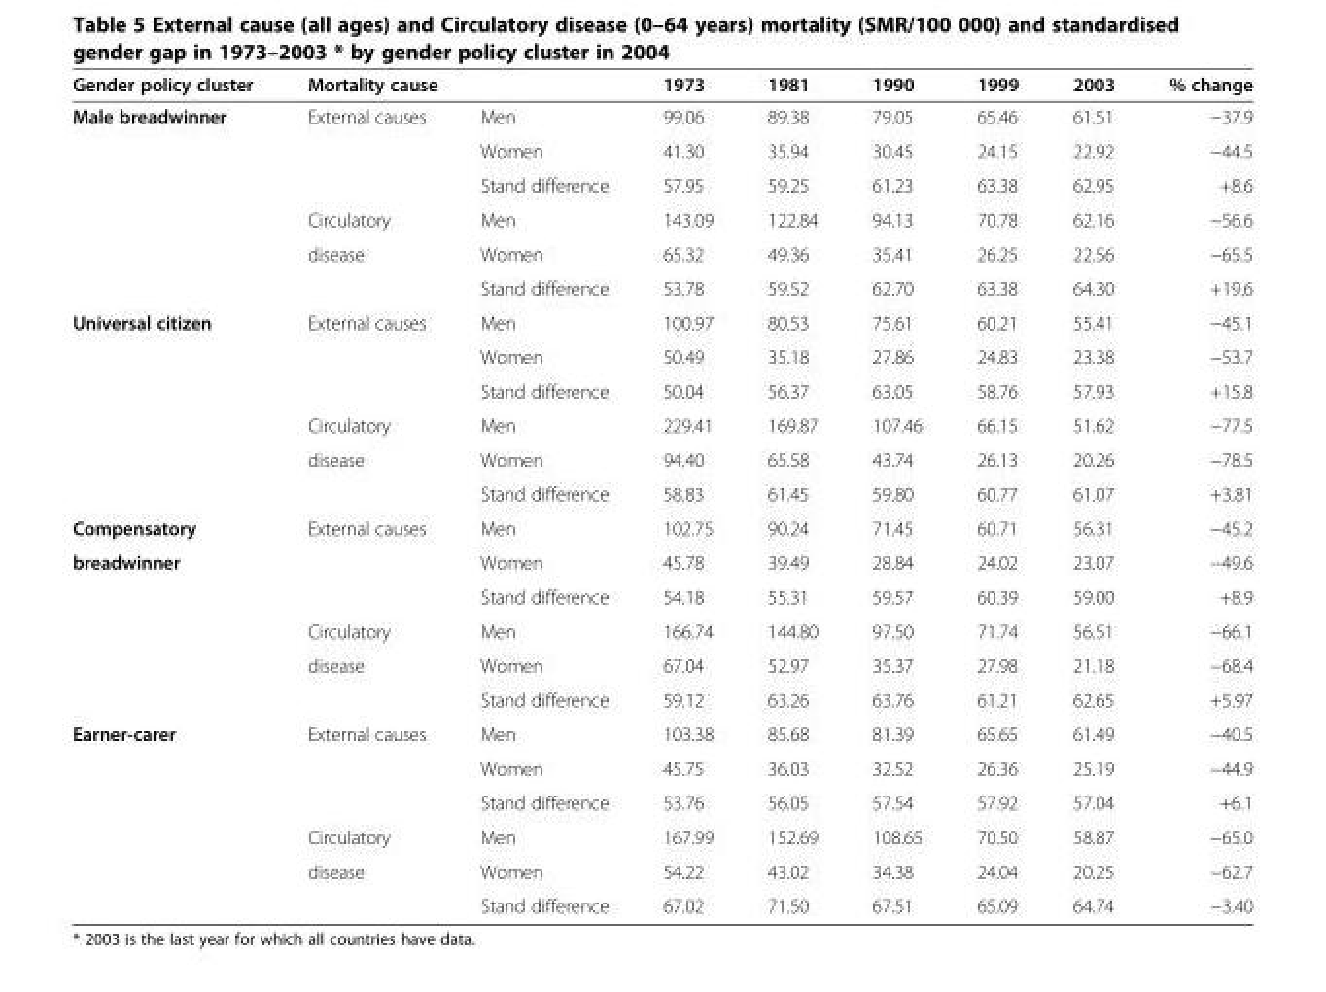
<table><thead><tr><td rowspan="2">Gender policy cluster Male breadwinner</td><td colspan="2">Mortality cause</td><td rowspan="2">1973 99.06</td><td rowspan="2">1981 89.38</td><td rowspan="2">1990 79.05</td><td rowspan="2">1999 65.46</td><td rowspan="2">2003 61.51</td><td rowspan="2">% change −37.9</td></tr><tr><td>External causes</td><td>Men</td></tr></thead><tbody><tr><td></td><td></td><td>Women</td><td>41.30</td><td>35.94</td><td>30.45</td><td>24.15</td><td>22.92</td><td>−44.5</td></tr><tr><td></td><td></td><td>Stand difference</td><td>57.95</td><td>59.25</td><td>61.23</td><td>63.38</td><td>62.95</td><td>+8.6</td></tr><tr><td></td><td>Circulatory</td><td>Men</td><td>143.09</td><td>122.84</td><td>94.13</td><td>70.78</td><td>62.16</td><td>−56.6</td></tr><tr><td></td><td>disease</td><td>Women</td><td>65.32</td><td>49.36</td><td>35.41</td><td>26.25</td><td>22.56</td><td>−65.5</td></tr><tr><td></td><td></td><td>Stand difference</td><td>53.78</td><td>59.52</td><td>62.70</td><td>63.38</td><td>64.30</td><td>+19.6</td></tr><tr><td rowspan="6">Universal citizen</td><td>External causes</td><td>Men</td><td>100.97</td><td>80.53</td><td>75.61</td><td>60.21</td><td>55.41</td><td>−45.1</td></tr><tr><td></td><td>Women</td><td>50.49</td><td>35.18</td><td>27.86</td><td>24.83</td><td>23.38</td><td>−53.7</td></tr><tr><td></td><td>Stand difference</td><td>50.04</td><td>56.37</td><td>63.05</td><td>58.76</td><td>57.93</td><td>+15.8</td></tr><tr><td>Circulatory</td><td>Men</td><td>229.41</td><td>169.87</td><td>107.46</td><td>66.15</td><td>51.62</td><td>−77.5</td></tr><tr><td>disease</td><td>Women</td><td>94.40</td><td>65.58</td><td>43.74</td><td>26.13</td><td>20.26</td><td>−78.5</td></tr><tr><td></td><td>Stand difference</td><td>58.83</td><td>61.45</td><td>59.80</td><td>60.77</td><td>61.07</td><td>+3.81</td></tr><tr><td>Compensatory</td><td>External causes</td><td>Men</td><td>102.75</td><td>90.24</td><td>71.45</td><td>60.71</td><td>56.31</td><td>−45.2</td></tr><tr><td rowspan="5">breadwinner</td><td></td><td>Women</td><td>45.78</td><td>39.49</td><td>28.84</td><td>24.02</td><td>23.07</td><td>−49.6</td></tr><tr><td></td><td>Stand difference</td><td>54.18</td><td>55.31</td><td>59.57</td><td>60.39</td><td>59.00</td><td>+8.9</td></tr><tr><td>Circulatory</td><td>Men</td><td>166.74</td><td>144.80</td><td>97.50</td><td>71.74</td><td>56.51</td><td>−66.1</td></tr><tr><td>disease</td><td>Women</td><td>67.04</td><td>52.97</td><td>35.37</td><td>27.98</td><td>21.18</td><td>−68.4</td></tr><tr><td></td><td>Stand difference</td><td>59.12</td><td>63.26</td><td>63.76</td><td>61.21</td><td>62.65</td><td>+5.97</td></tr><tr><td rowspan="6">Earner-carer</td><td>External causes</td><td>Men</td><td>103.38</td><td>85.68</td><td>81.39</td><td>65.65</td><td>61.49</td><td>−40.5</td></tr><tr><td></td><td>Women</td><td>45.75</td><td>36.03</td><td>32.52</td><td>26.36</td><td>25.19</td><td>−44.9</td></tr><tr><td></td><td>Stand difference</td><td>53.76</td><td>56.05</td><td>57.54</td><td>57.92</td><td>57.04</td><td>+6.1</td></tr><tr><td>Circulatory</td><td>Men</td><td>167.99</td><td>152.69</td><td>108.65</td><td>70.50</td><td>58.87</td><td>−65.0</td></tr><tr><td>disease</td><td>Women</td><td>54.22</td><td>43.02</td><td>34.38</td><td>24.04</td><td>20.25</td><td>−62.7</td></tr><tr><td></td><td>Stand difference</td><td>67.02</td><td>71.50</td><td>67.51</td><td>65.09</td><td>64.74</td><td>−3.40</td></tr></tbody></table>